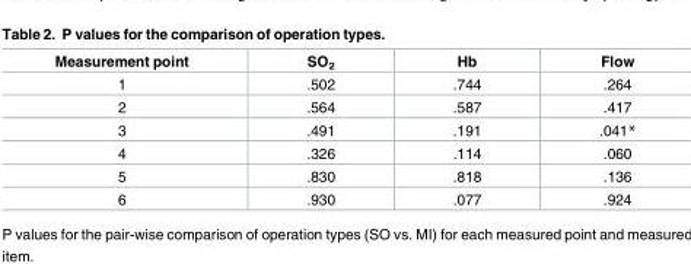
<table><thead><tr><td>Measurement point</td><td>SO<sub>2</sub></td><td>Hb</td><td>Flow</td></tr></thead><tbody><tr><td>1</td><td>.502</td><td>.744</td><td>.264</td></tr><tr><td>2</td><td>.564</td><td>.587</td><td>.417</td></tr><tr><td>3</td><td>.491</td><td>.191</td><td>.041*</td></tr><tr><td>4</td><td>.326</td><td>.114</td><td>.060</td></tr><tr><td>5</td><td>.830</td><td>.818</td><td>.136</td></tr><tr><td>6</td><td>.930</td><td>.077</td><td>.924</td></tr></tbody></table>